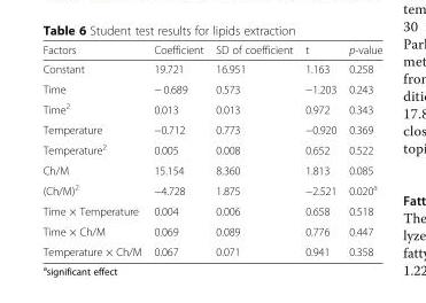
<table><thead><tr><td>Factors</td><td>Coefficient</td><td>SD of coefficient</td><td>t</td><td>p-value</td></tr></thead><tbody><tr><td>Constant</td><td>19.721</td><td>16.951</td><td>1.163</td><td>0.258</td></tr><tr><td>Time</td><td>− 0.689</td><td>0.573</td><td>−1.203</td><td>0.243</td></tr><tr><td>Time<sup>2</sup></td><td>0.013</td><td>0.013</td><td>0.972</td><td>0.343</td></tr><tr><td>Temperature</td><td>−0.712</td><td>0.773</td><td>−0.920</td><td>0.369</td></tr><tr><td>Temperature<sup>2</sup></td><td>0.005</td><td>0.008</td><td>0.652</td><td>0.522</td></tr><tr><td>Ch/M</td><td>15.154</td><td>8.360</td><td>1.813</td><td>0.085</td></tr><tr><td>(Ch/M)<sup>2</sup></td><td>−4.728</td><td>1.875</td><td>−2.521</td><td>0.020<sup>a</sup></td></tr><tr><td>Time × Temperature</td><td>0.004</td><td>0.006</td><td>0.658</td><td>0.518</td></tr><tr><td>Time × Ch/M</td><td>0.069</td><td>0.089</td><td>0.776</td><td>0.447</td></tr><tr><td>Temperature × Ch/M</td><td>0.067</td><td>0.071</td><td>0.941</td><td>0.358</td></tr></tbody></table>